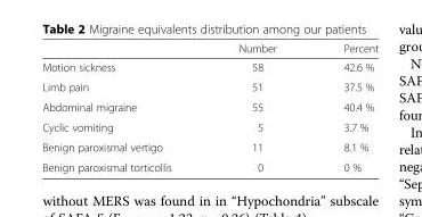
<table><thead><tr><td></td><td>Number</td><td>Percent</td></tr></thead><tbody><tr><td>Motion sickness</td><td>58</td><td>42.6 %</td></tr><tr><td>Limb pain</td><td>51</td><td>37.5 %</td></tr><tr><td>Abdominal migraine</td><td>55</td><td>40.4 %</td></tr><tr><td>Cyclic vomiting</td><td>5</td><td>3.7 %</td></tr><tr><td>Benign paroxismal vertigo</td><td>11</td><td>8.1 %</td></tr><tr><td>Benign paroxismal torticollis</td><td>0</td><td>0 %</td></tr></tbody></table>